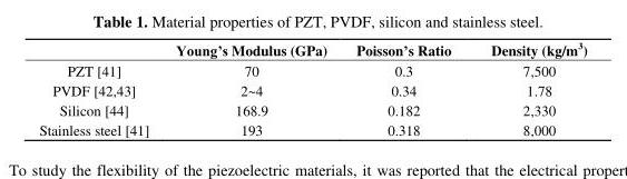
<table><thead><tr><td></td><td>Young’s Modulus (GPa)</td><td>Poisson’s Ratio</td><td>Density (kg/m<sup>3</sup>)</td></tr></thead><tbody><tr><td>PZT [41]</td><td>70</td><td>0.3</td><td>7,500</td></tr><tr><td>PVDF [42,43]</td><td>2~4</td><td>0.34</td><td>1.78</td></tr><tr><td>Silicon [44]</td><td>168.9</td><td>0.182</td><td>2,330</td></tr><tr><td>Stainless steel [41]</td><td>193</td><td>0.318</td><td>8,000</td></tr></tbody></table>